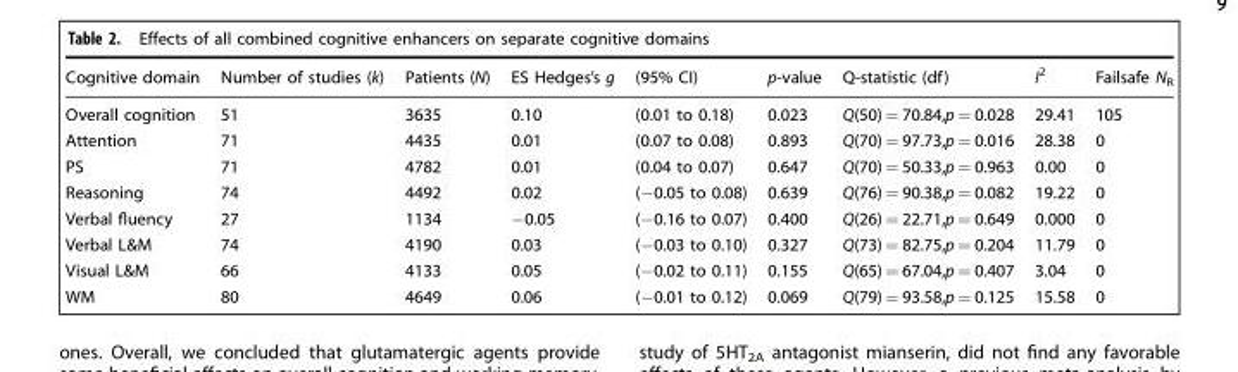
<table><thead><tr><td>Cognitive domain</td><td>Number of studies (k)</td><td>Patients (N)</td><td>ES Hedges’s g</td><td>(95% CI)</td><td>p-value</td><td>Q-statistic (df)</td><td>I<sup>2</sup></td><td>Failsafe N<sub>R</sub></td></tr></thead><tbody><tr><td>Overall cognition</td><td>51</td><td>3635</td><td>0.10</td><td>(0.01 to 0.18)</td><td>0.023</td><td>Q(50) = 70.84,p = 0.028</td><td>29.41</td><td>105</td></tr><tr><td>Attention</td><td>71</td><td>4435</td><td>0.01</td><td>(0.07 to 0.08)</td><td>0.893</td><td>Q(70) = 97.73,p = 0.016</td><td>28.38</td><td>0</td></tr><tr><td>PS</td><td>71</td><td>4782</td><td>0.01</td><td>(0.04 to 0.07)</td><td>0.647</td><td>Q(70) = 50.33,p = 0.963</td><td>0.00</td><td>0</td></tr><tr><td>Reasoning</td><td>74</td><td>4492</td><td>0.02</td><td>(−0.05 to 0.08)</td><td>0.639</td><td>Q(76) = 90.38,p = 0.082</td><td>19.22</td><td>0</td></tr><tr><td>Verbal fluency</td><td>27</td><td>1134</td><td>−0.05</td><td>(−0.16 to 0.07)</td><td>0.400</td><td>Q(26) = 22.71,p = 0.649</td><td>0.000</td><td>0</td></tr><tr><td>Verbal L&amp;M</td><td>74</td><td>4190</td><td>0.03</td><td>(−0.03 to 0.10)</td><td>0.327</td><td>Q(73) = 82.75,p = 0.204</td><td>11.79</td><td>0</td></tr><tr><td>Visual L&amp;M</td><td>66</td><td>4133</td><td>0.05</td><td>(−0.02 to 0.11)</td><td>0.155</td><td>Q(65) = 67.04,p = 0.407</td><td>3.04</td><td>0</td></tr><tr><td>WM</td><td>80</td><td>4649</td><td>0.06</td><td>(−0.01 to 0.12)</td><td>0.069</td><td>Q(79) = 93.58,p = 0.125</td><td>15.58</td><td>0</td></tr></tbody></table>